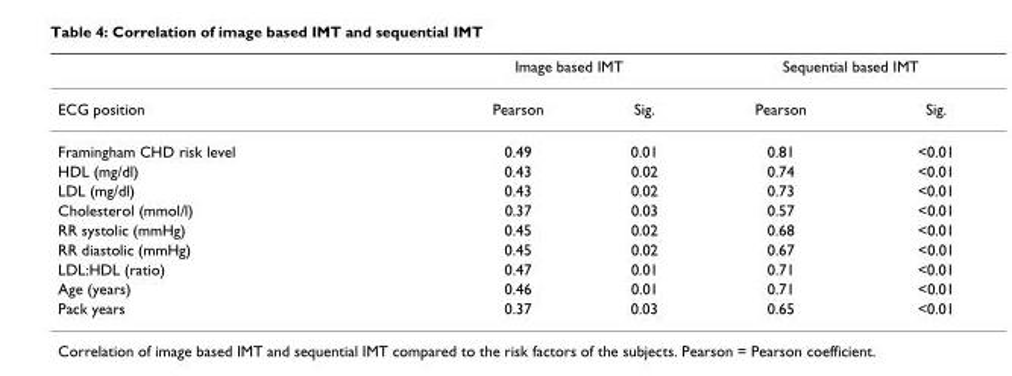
<table><thead><tr><td rowspan="2">ECG position</td><td colspan="2">Image based IMT</td><td colspan="2">Sequential based IMT</td></tr><tr><td>Pearson</td><td>Sig.</td><td>Pearson</td><td>Sig.</td></tr></thead><tbody><tr><td>Framingham CHD risk level</td><td>0.49</td><td>0.01</td><td>0.81</td><td>&lt;0.01</td></tr><tr><td>HDL (mg/dl)</td><td>0.43</td><td>0.02</td><td>0.74</td><td>&lt;0.01</td></tr><tr><td>LDL (mg/dl)</td><td>0.43</td><td>0.02</td><td>0.73</td><td>&lt;0.01</td></tr><tr><td>Cholesterol (mmol/l)</td><td>0.37</td><td>0.03</td><td>0.57</td><td>&lt;0.01</td></tr><tr><td>RR systolic (mmHg)</td><td>0.45</td><td>0.02</td><td>0.68</td><td>&lt;0.01</td></tr><tr><td>RR diastolic (mmHg)</td><td>0.45</td><td>0.02</td><td>0.67</td><td>&lt;0.01</td></tr><tr><td>LDL:HDL (ratio)</td><td>0.47</td><td>0.01</td><td>0.71</td><td>&lt;0.01</td></tr><tr><td>Age (years)</td><td>0.46</td><td>0.01</td><td>0.71</td><td>&lt;0.01</td></tr><tr><td>Pack years</td><td>0.37</td><td>0.03</td><td>0.65</td><td>&lt;0.01</td></tr></tbody></table>